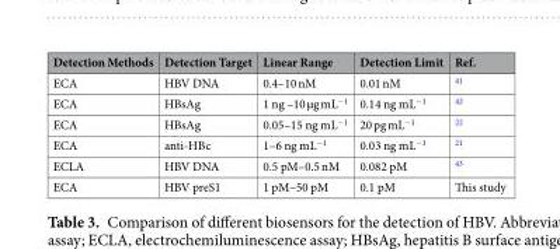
<table><thead><tr><td>Detection Methods</td><td>Detection Target</td><td>Linear Range</td><td>Detection Limit</td><td>Ref.</td></tr></thead><tbody><tr><td>ECA</td><td>HBV DNA</td><td>0.4–10 nM</td><td>0.01 nM</td><td><sup>41</sup></td></tr><tr><td>ECA</td><td>HBsAg</td><td>1 ng –10 µg mL<sup>−1</sup></td><td>0.14 ng mL<sup>−1</sup></td><td><sup>42</sup></td></tr><tr><td>ECA</td><td>HBsAg</td><td>0.05–15 ng mL<sup>−1</sup></td><td>20 pg mL<sup>−1</sup></td><td><sup>22</sup></td></tr><tr><td>ECA</td><td>anti-HBc</td><td>1–6 ng mL<sup>−1</sup></td><td>0.03 ng mL<sup>−1</sup></td><td><sup>21</sup></td></tr><tr><td>ECLA</td><td>HBV DNA</td><td>0.5 pM–0.5 nM</td><td>0.082 pM</td><td><sup>43</sup></td></tr><tr><td>ECA</td><td>HBV preS1</td><td>1 pM–50 pM</td><td>0.1 pM</td><td>This study</td></tr></tbody></table>